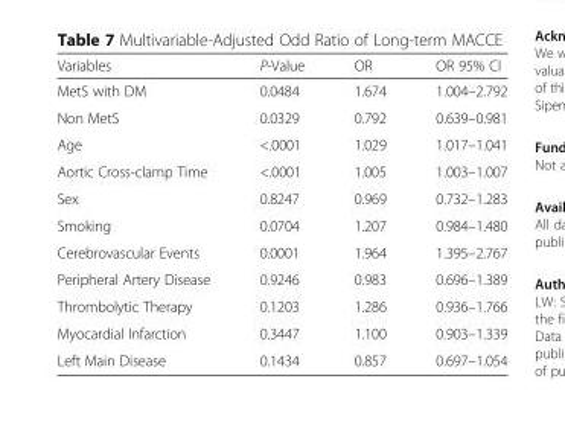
<table><thead><tr><td>Variables</td><td>P-Value</td><td>OR</td><td>OR 95% CI</td></tr></thead><tbody><tr><td>MetS with DM</td><td>0.0484</td><td>1.674</td><td>1.004–2.792</td></tr><tr><td>Non MetS</td><td>0.0329</td><td>0.792</td><td>0.639–0.981</td></tr><tr><td>Age</td><td>&lt;.0001</td><td>1.029</td><td>1.017–1.041</td></tr><tr><td>Aortic Cross-clamp Time</td><td>&lt;.0001</td><td>1.005</td><td>1.003–1.007</td></tr><tr><td>Sex</td><td>0.8247</td><td>0.969</td><td>0.732–1.283</td></tr><tr><td>Smoking</td><td>0.0704</td><td>1.207</td><td>0.984–1.480</td></tr><tr><td>Cerebrovascular Events</td><td>0.0001</td><td>1.964</td><td>1.395–2.767</td></tr><tr><td>Peripheral Artery Disease</td><td>0.9246</td><td>0.983</td><td>0.696–1.389</td></tr><tr><td>Thrombolytic Therapy</td><td>0.1203</td><td>1.286</td><td>0.936–1.766</td></tr><tr><td>Myocardial Infarction</td><td>0.3447</td><td>1.100</td><td>0.903–1.339</td></tr><tr><td>Left Main Disease</td><td>0.1434</td><td>0.857</td><td>0.697–1.054</td></tr></tbody></table>